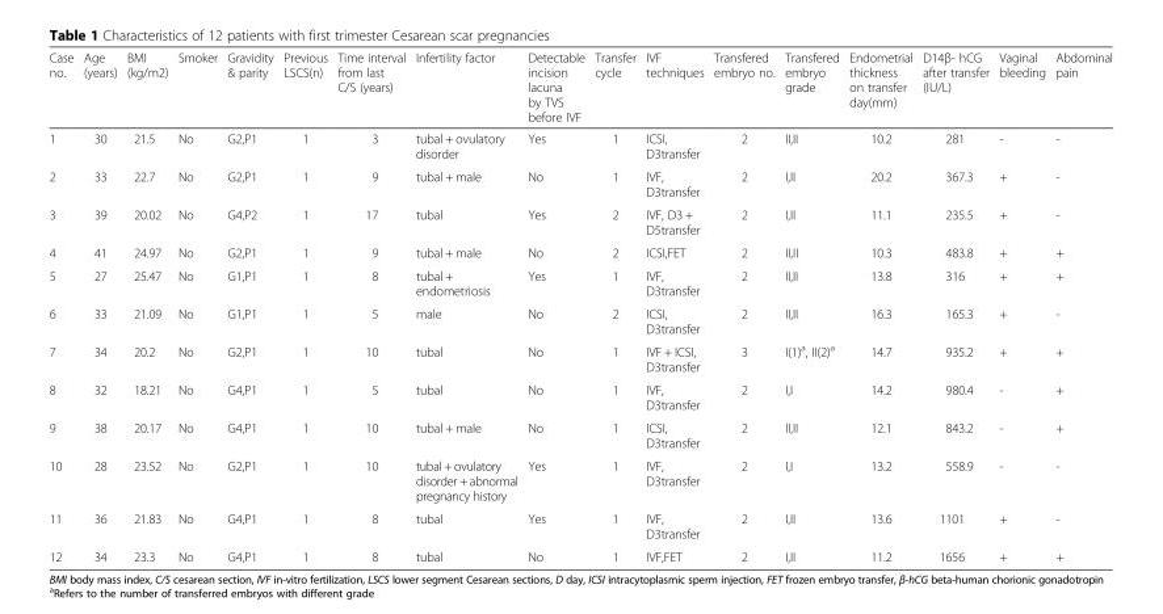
<table><thead><tr><td>Case no.</td><td>Age (years)</td><td>BMI (kg/m2)</td><td>Smoker</td><td>Gravidity &amp; parity</td><td>Previous LSCS(n)</td><td>Time interval from last C/S (years)</td><td>Infertility factor</td><td>Detectable incision lacuna by TVS before IVF</td><td>Transfer cycle</td><td>IVF techniques</td><td>Transfered embryo no.</td><td>Transfered embryo grade</td><td>Endometrial thickness on transfer day(mm)</td><td>D14β- hCG after transfer (IU/L)</td><td>Vaginal bleeding</td><td>Abdominal pain</td></tr></thead><tbody><tr><td>1</td><td>30</td><td>21.5</td><td>No</td><td>G2,P1</td><td>1</td><td>3</td><td>tubal + ovulatory disorder</td><td>Yes</td><td>1</td><td>ICSI, D3transfer</td><td>2</td><td>II,II</td><td>10.2</td><td>281</td><td>-</td><td>-</td></tr><tr><td>2</td><td>33</td><td>22.7</td><td>No</td><td>G2,P1</td><td>1</td><td>9</td><td>tubal + male</td><td>No</td><td>1</td><td>IVF, D3transfer</td><td>2</td><td>I,II</td><td>20.2</td><td>367.3</td><td>+</td><td>-</td></tr><tr><td>3</td><td>39</td><td>20.02</td><td>No</td><td>G4,P2</td><td>1</td><td>17</td><td>tubal</td><td>Yes</td><td>2</td><td>IVF, D3 + D5transfer</td><td>2</td><td>I,II</td><td>11.1</td><td>235.5</td><td>+</td><td>-</td></tr><tr><td>4</td><td>41</td><td>24.97</td><td>No</td><td>G2,P1</td><td>1</td><td>9</td><td>tubal + male</td><td>No</td><td>2</td><td>ICSI,FET</td><td>2</td><td>II,II</td><td>10.3</td><td>483.8</td><td>+</td><td>+</td></tr><tr><td>5</td><td>27</td><td>25.47</td><td>No</td><td>G1,P1</td><td>1</td><td>8</td><td>tubal + endometriosis</td><td>Yes</td><td>1</td><td>IVF, D3transfer</td><td>2</td><td>II,II</td><td>13.8</td><td>316</td><td>+</td><td>+</td></tr><tr><td>6</td><td>33</td><td>21.09</td><td>No</td><td>G1,P1</td><td>1</td><td>5</td><td>male</td><td>No</td><td>2</td><td>ICSI, D3transfer</td><td>2</td><td>II,II</td><td>16.3</td><td>165.3</td><td>+</td><td>-</td></tr><tr><td>7</td><td>34</td><td>20.2</td><td>No</td><td>G2,P1</td><td>1</td><td>10</td><td>tubal</td><td>No</td><td>1</td><td>IVF + ICSI, D3transfer</td><td>3</td><td>I(1)<sup>a</sup>, II(2)<sup>a</sup></td><td>14.7</td><td>935.2</td><td>+</td><td>+</td></tr><tr><td>8</td><td>32</td><td>18.21</td><td>No</td><td>G4,P1</td><td>1</td><td>5</td><td>tubal</td><td>No</td><td>1</td><td>IVF, D3transfer</td><td>2</td><td>I,I</td><td>14.2</td><td>980.4</td><td>-</td><td>+</td></tr><tr><td>9</td><td>38</td><td>20.17</td><td>No</td><td>G4,P1</td><td>1</td><td>10</td><td>tubal + male</td><td>No</td><td>1</td><td>ICSI, D3transfer</td><td>2</td><td>II,II</td><td>12.1</td><td>843.2</td><td>-</td><td>+</td></tr><tr><td>10</td><td>28</td><td>23.52</td><td>No</td><td>G2,P1</td><td>1</td><td>10</td><td>tubal + ovulatory disorder + abnormal pregnancy history</td><td>Yes</td><td>1</td><td>IVF, D3transfer</td><td>2</td><td>I,I</td><td>13.2</td><td>558.9</td><td>-</td><td>-</td></tr><tr><td>11</td><td>36</td><td>21.83</td><td>No</td><td>G4,P1</td><td>1</td><td>8</td><td>tubal</td><td>Yes</td><td>1</td><td>IVF, D3transfer</td><td>2</td><td>I,II</td><td>13.6</td><td>1101</td><td>+</td><td>-</td></tr><tr><td>12</td><td>34</td><td>23.3</td><td>No</td><td>G4,P1</td><td>1</td><td>8</td><td>tubal</td><td>No</td><td>1</td><td>IVF,FET</td><td>2</td><td>I,II</td><td>11.2</td><td>1656</td><td>+</td><td>+</td></tr></tbody></table>